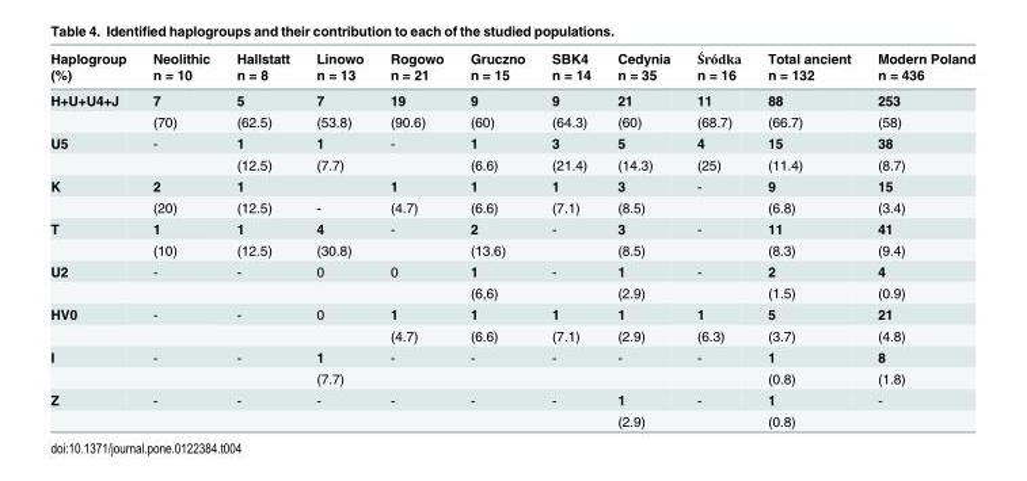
<table><thead><tr><td rowspan="2">Haplogroup (%)</td><td rowspan="2">Neolithic n = 10</td><td rowspan="2">Hallstatt n = 8</td><td rowspan="2">Linowo n = 13</td><td rowspan="2">Rogowo n = 21</td><td rowspan="2">Gruczno n = 15</td><td rowspan="2">SBK4 n = 14</td><td rowspan="2">Cedynia n = 35</td><td rowspan="2">Śródka n = 16</td><td rowspan="2">Total ancient n = 132</td><td rowspan="2">Modern Poland n = 436</td></tr><tr></tr></thead><tbody><tr><td rowspan="2">H+U+U4+J</td><td>7</td><td>5</td><td>7</td><td>19</td><td>9</td><td>9</td><td>21</td><td>11</td><td>88</td><td>253</td></tr><tr><td>(70)</td><td>(62.5)</td><td>(53.8)</td><td>(90.6)</td><td>(60)</td><td>(64.3)</td><td>(60)</td><td>(68.7)</td><td>(66.7)</td><td>(58)</td></tr><tr><td rowspan="2">U5</td><td>-</td><td>1</td><td>1</td><td>-</td><td>1</td><td>3</td><td>5</td><td>4</td><td>15</td><td>38</td></tr><tr><td></td><td>(12.5)</td><td>(7.7)</td><td></td><td>(6.6)</td><td>(21.4)</td><td>(14.3)</td><td>(25)</td><td>(11.4)</td><td>(8.7)</td></tr><tr><td rowspan="2">K</td><td>2</td><td>1</td><td></td><td>1</td><td>1</td><td>1</td><td>3</td><td>-</td><td>9</td><td>15</td></tr><tr><td>(20)</td><td>(12.5)</td><td>-</td><td>(4.7)</td><td>(6.6)</td><td>(7.1)</td><td>(8.5)</td><td></td><td>(6.8)</td><td>(3.4)</td></tr><tr><td rowspan="2">T</td><td>1</td><td>1</td><td>4</td><td>-</td><td>2</td><td>-</td><td>3</td><td>-</td><td>11</td><td>41</td></tr><tr><td>(10)</td><td>(12.5)</td><td>(30.8)</td><td></td><td>(13.6)</td><td></td><td>(8.5)</td><td></td><td>(8.3)</td><td>(9.4)</td></tr><tr><td rowspan="2">U2</td><td>-</td><td>-</td><td>0</td><td>0</td><td>1</td><td>-</td><td>1</td><td>-</td><td>2</td><td>4</td></tr><tr><td></td><td></td><td></td><td></td><td>(6,6)</td><td></td><td>(2.9)</td><td></td><td>(1.5)</td><td>(0.9)</td></tr><tr><td rowspan="2">HV0</td><td>-</td><td>-</td><td>0</td><td>1</td><td>1</td><td>1</td><td>1</td><td>1</td><td>5</td><td>21</td></tr><tr><td></td><td></td><td></td><td>(4.7)</td><td>(6.6)</td><td>(7.1)</td><td>(2.9)</td><td>(6.3)</td><td>(3.7)</td><td>(4.8)</td></tr><tr><td rowspan="2">I</td><td>-</td><td>-</td><td>1</td><td>-</td><td>-</td><td>-</td><td>-</td><td>-</td><td>1</td><td>8</td></tr><tr><td></td><td></td><td>(7.7)</td><td></td><td></td><td></td><td></td><td></td><td>(0.8)</td><td>(1.8)</td></tr><tr><td rowspan="2">Z</td><td>-</td><td>-</td><td>-</td><td>-</td><td>-</td><td>-</td><td>1</td><td>-</td><td>1</td><td>-</td></tr><tr><td></td><td></td><td></td><td></td><td></td><td></td><td>(2.9)</td><td></td><td>(0.8)</td><td></td></tr></tbody></table>